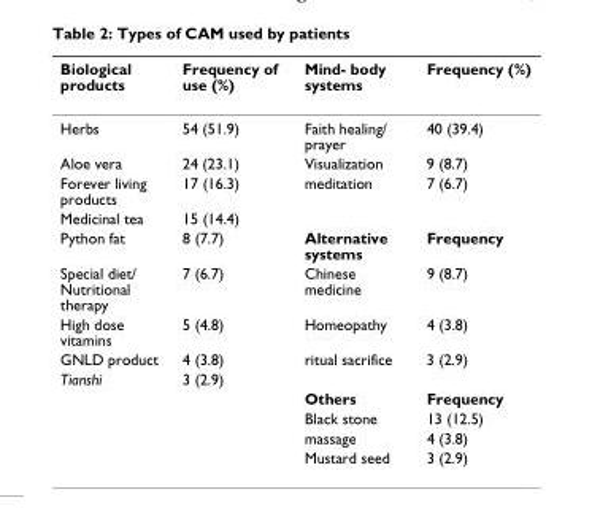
<table><thead><tr><td>Biological products</td><td>Frequency of use (%)</td><td>Mind- body systems</td><td>Frequency (%)</td></tr></thead><tbody><tr><td>Herbs</td><td>54 (51.9)</td><td>Faith healing/ prayer</td><td>40 (39.4)</td></tr><tr><td>Aloe vera</td><td>24 (23.1)</td><td>Visualization</td><td>9 (8.7)</td></tr><tr><td>Forever living products</td><td>17 (16.3)</td><td>meditation</td><td>7 (6.7)</td></tr><tr><td>Medicinal tea</td><td>15 (14.4)</td><td></td><td></td></tr><tr><td>Python fat</td><td>8 (7.7)</td><td>Alternative systems</td><td>Frequency</td></tr><tr><td>Special diet/ Nutritional therapy</td><td>7 (6.7)</td><td>Chinese medicine</td><td>9 (8.7)</td></tr><tr><td>High dose vitamins</td><td>5 (4.8)</td><td>Homeopathy</td><td>4 (3.8)</td></tr><tr><td>GNLD product</td><td>4 (3.8)</td><td>ritual sacrifice</td><td>3 (2.9)</td></tr><tr><td rowspan="5">Tianshi</td><td>3 (2.9)</td><td></td><td></td></tr><tr><td></td><td>Others</td><td>Frequency</td></tr><tr><td></td><td>Black stone</td><td>13 (12.5)</td></tr><tr><td></td><td>massage</td><td>4 (3.8)</td></tr><tr><td></td><td>Mustard seed</td><td>3 (2.9)</td></tr></tbody></table>